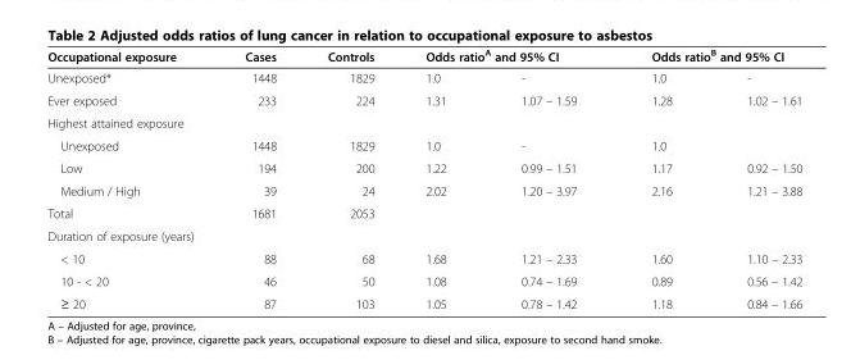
<table><thead><tr><td rowspan="2">Occupational exposure Unexposed*</td><td rowspan="2">Cases 1448</td><td rowspan="2">Controls 1829</td><td colspan="2">Odds ratio<sup>A</sup> and 95% CI</td><td colspan="2">Odds ratio<sup>B</sup> and 95% CI</td></tr><tr><td>1.0</td><td>-</td><td>1.0</td><td>-</td></tr></thead><tbody><tr><td>Ever exposed</td><td>233</td><td>224</td><td>1.31</td><td>1.07 – 1.59</td><td>1.28</td><td>1.02 – 1.61</td></tr><tr><td colspan="7">Highest attained exposure</td></tr><tr><td>Unexposed</td><td>1448</td><td>1829</td><td>1.0</td><td>-</td><td>1.0</td><td></td></tr><tr><td>Low</td><td>194</td><td>200</td><td>1.22</td><td>0.99 – 1.51</td><td>1.17</td><td>0.92 – 1.50</td></tr><tr><td>Medium / High</td><td>39</td><td>24</td><td>2.02</td><td>1.20 – 3.97</td><td>2.16</td><td>1.21 – 3.88</td></tr><tr><td>Total</td><td>1681</td><td>2053</td><td></td><td></td><td></td><td></td></tr><tr><td colspan="7">Duration of exposure (years)</td></tr><tr><td>&lt; 10</td><td>88</td><td>68</td><td>1.68</td><td>1.21 – 2.33</td><td>1.60</td><td>1.10 – 2.33</td></tr><tr><td>10 - &lt; 20</td><td>46</td><td>50</td><td>1.08</td><td>0.74 – 1.69</td><td>0.89</td><td>0.56 – 1.42</td></tr><tr><td>≥ 20</td><td>87</td><td>103</td><td>1.05</td><td>0.78 – 1.42</td><td>1.18</td><td>0.84 – 1.66</td></tr></tbody></table>